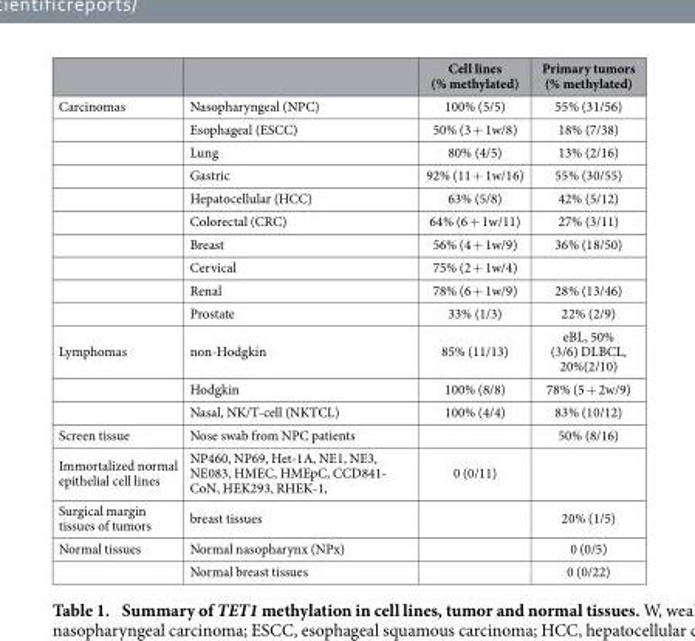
<table><thead><tr><td></td><td></td><td>Cell lines (% methylated)</td><td>Primary tumors (% methylated)</td></tr></thead><tbody><tr><td rowspan="10">Carcinomas</td><td>Nasopharyngeal (NPC)</td><td>100% (5/5)</td><td>55% (31/56)</td></tr><tr><td>Esophageal (ESCC)</td><td>50% (3 + 1w/8)</td><td>18% (7/38)</td></tr><tr><td>Lung</td><td>80% (4/5)</td><td>13% (2/16)</td></tr><tr><td>Gastric</td><td>92% (11 + 1w/16)</td><td>55% (30/55)</td></tr><tr><td>Hepatocellular (HCC)</td><td>63% (5/8)</td><td>42% (5/12)</td></tr><tr><td>Colorectal (CRC)</td><td>64% (6 + 1w/11)</td><td>27% (3/11)</td></tr><tr><td>Breast</td><td>56% (4 + 1w/9)</td><td>36% (18/50)</td></tr><tr><td>Cervical</td><td>75% (2 + 1w/4)</td><td></td></tr><tr><td>Renal</td><td>78% (6 + 1w/9)</td><td>28% (13/46)</td></tr><tr><td>Prostate</td><td>33% (1/3)</td><td>22% (2/9)</td></tr><tr><td rowspan="3">Lymphomas</td><td>non-Hodgkin</td><td>85% (11/13)</td><td>eBL, 50% (3/6) DLBCL, 20%(2/10)</td></tr><tr><td>Hodgkin</td><td>100% (8/8)</td><td>78% (5 + 2w/9)</td></tr><tr><td>Nasal, NK/T-cell (NKTCL)</td><td>100% (4/4)</td><td>83% (10/12)</td></tr><tr><td>Screen tissue</td><td>Nose swab from NPC patients</td><td></td><td>50% (8/16)</td></tr><tr><td>Immortalized normal epithelial cell lines</td><td>NP460, NP69, Het-1A, NE1, NE3, NE083, HMEC, HMEpC, CCD841- CoN, HEK293, RHEK-1,</td><td>0 (0/11)</td><td></td></tr><tr><td>Surgical margin tissues of tumors</td><td>breast tissues</td><td></td><td>20% (1/5)</td></tr><tr><td rowspan="2">Normal tissues</td><td>Normal nasopharynx (NPx)</td><td></td><td>0 (0/5)</td></tr><tr><td>Normal breast tissues</td><td></td><td>0 (0/22)</td></tr></tbody></table>